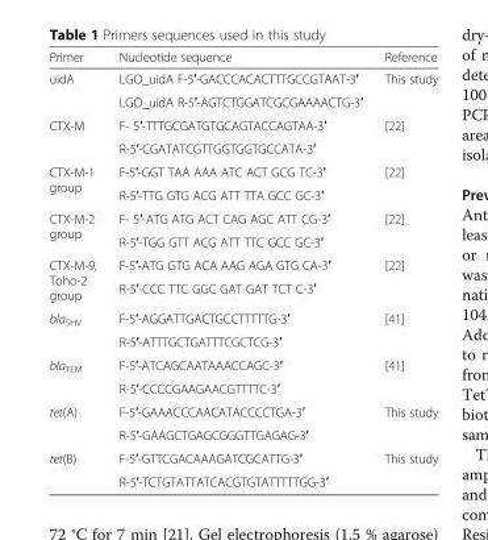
<table><thead><tr><td>Primer</td><td>Nucleotide sequence</td><td>Reference</td></tr></thead><tbody><tr><td rowspan="2">uidA</td><td>LGO_uidA F-5′-GACCCACACTTTGCCGTAAT-3′</td><td rowspan="2">This study</td></tr><tr><td>LGO_uidA R-5′-AGTCTGGATCGCGAAAACTG-3′</td></tr><tr><td rowspan="2">CTX-M</td><td>F- 5′-TTTGCGATGTGCAGTACCAGTAA-3′</td><td rowspan="2">[22]</td></tr><tr><td>R-5′-CGATATCGTTGGTGGTGCCATA-3′</td></tr><tr><td rowspan="2">CTX-M-1 group</td><td>F-5′-GGT TAA AAA ATC ACT GCG TC-3′</td><td rowspan="2">[22]</td></tr><tr><td>R-5′-TTG GTG ACG ATT TTA GCC GC-3′</td></tr><tr><td rowspan="2">CTX-M-2 group</td><td>F- 5′-ATG ATG ACT CAG AGC ATT CG-3′</td><td rowspan="2">[22]</td></tr><tr><td>R-5′-TGG GTT ACG ATT TTC GCC GC-3′</td></tr><tr><td rowspan="2">CTX-M-9, Toho-2 group</td><td>F-5′-ATG GTG ACA AAG AGA GTG CA-3′</td><td rowspan="2">[22]</td></tr><tr><td>R-5′-CCC TTC GGC GAT GAT TCT C-3′</td></tr><tr><td rowspan="2">bla<sub>SHV</sub></td><td>F-5′-AGGATTGACTGCCTTTTTG-3′</td><td rowspan="2">[41]</td></tr><tr><td>R-5′-ATTTGCTGATTTCGCTCG-3′</td></tr><tr><td rowspan="2">bla<sub>TEM</sub></td><td>F-5′-ATCAGCAATAAACCAGC-3′</td><td rowspan="2">[41]</td></tr><tr><td>R-5′-CCCCGAAGAACGTTTTC-3′</td></tr><tr><td rowspan="2">tet(A)</td><td>F-5′-GAAACCCAACATACCCCTGA-3′</td><td rowspan="2">This study</td></tr><tr><td>R-5′-GAAGCTGAGCGGGTTGAGAG-3′</td></tr><tr><td rowspan="2">tet(B)</td><td>F-5′-GTTCGACAAAGATCGCATTG-3′</td><td rowspan="2">This study</td></tr><tr><td>R-5′-TCTGTATTATCACGTGTATTTTTGG-3′</td></tr></tbody></table>